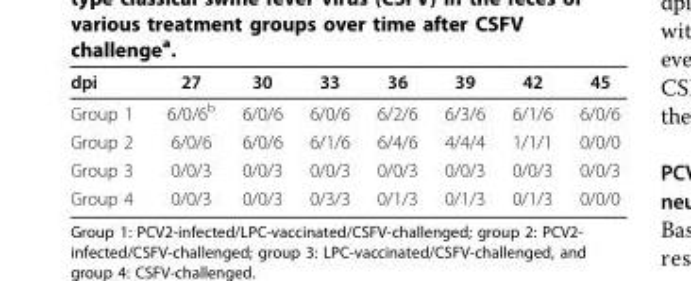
<table><thead><tr><td>dpi</td><td>27</td><td>30</td><td>33</td><td>36</td><td>39</td><td>42</td><td>45</td></tr></thead><tbody><tr><td>Group 1</td><td>6/0/6<sup>b</sup></td><td>6/0/6</td><td>6/0/6</td><td>6/2/6</td><td>6/3/6</td><td>6/1/6</td><td>6/0/6</td></tr><tr><td>Group 2</td><td>6/0/6</td><td>6/0/6</td><td>6/1/6</td><td>6/4/6</td><td>4/4/4</td><td>1/1/1</td><td>0/0/0</td></tr><tr><td>Group 3</td><td>0/0/3</td><td>0/0/3</td><td>0/0/3</td><td>0/0/3</td><td>0/0/3</td><td>0/0/3</td><td>0/0/3</td></tr><tr><td>Group 4</td><td>0/0/3</td><td>0/0/3</td><td>0/3/3</td><td>0/1/3</td><td>0/1/3</td><td>0/1/3</td><td>0/0/0</td></tr></tbody></table>